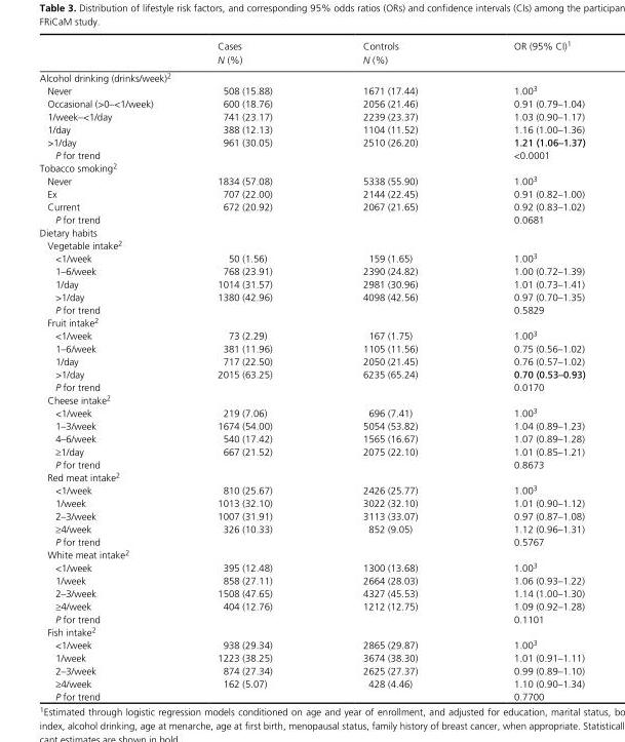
<table><thead><tr><td></td><td>Cases N (%)</td><td>Controls N (%)</td><td>OR (95% CI)1</td></tr></thead><tbody><tr><td colspan="4">Alcohol drinking (drinks/week)2</td></tr><tr><td>Never</td><td>508 (15.88)</td><td>1671 (17.44)</td><td>1.003</td></tr><tr><td>Occasional (&gt;0–&lt;1/week)</td><td>600 (18.76)</td><td>2056 (21.46)</td><td>0.91 (0.79–1.04)</td></tr><tr><td>1/week–&lt;1/day</td><td>741 (23.17)</td><td>2239 (23.37)</td><td>1.03 (0.90–1.17)</td></tr><tr><td>1/day</td><td>388 (12.13)</td><td>1104 (11.52)</td><td>1.16 (1.00–1.36)</td></tr><tr><td>&gt;1/day</td><td>961 (30.05)</td><td>2510 (26.20)</td><td>1.21 (1.06–1.37)</td></tr><tr><td>P for trend</td><td></td><td></td><td>&lt;0.0001</td></tr><tr><td colspan="4">Tobacco smoking2</td></tr><tr><td>Never</td><td>1834 (57.08)</td><td>5338 (55.90)</td><td>1.003</td></tr><tr><td>Ex</td><td>707 (22.00)</td><td>2144 (22.45)</td><td>0.91 (0.82–1.00)</td></tr><tr><td>Current</td><td>672 (20.92)</td><td>2067 (21.65)</td><td>0.92 (0.83–1.02)</td></tr><tr><td>P for trend</td><td></td><td></td><td>0.0681</td></tr><tr><td colspan="4">Dietary habits</td></tr><tr><td colspan="4">Vegetable intake2</td></tr><tr><td>&lt;1/week</td><td>50 (1.56)</td><td>159 (1.65)</td><td>1.003</td></tr><tr><td>1–6/week</td><td>768 (23.91)</td><td>2390 (24.82)</td><td>1.00 (0.72–1.39)</td></tr><tr><td>1/day</td><td>1014 (31.57)</td><td>2981 (30.96)</td><td>1.01 (0.73–1.41)</td></tr><tr><td>&gt;1/day</td><td>1380 (42.96)</td><td>4098 (42.56)</td><td>0.97 (0.70–1.35)</td></tr><tr><td>P for trend</td><td></td><td></td><td>0.5829</td></tr><tr><td colspan="4">Fruit intake2</td></tr><tr><td>&lt;1/week</td><td>73 (2.29)</td><td>167 (1.75)</td><td>1.003</td></tr><tr><td>1–6/week</td><td>381 (11.96)</td><td>1105 (11.56)</td><td>0.75 (0.56–1.02)</td></tr><tr><td>1/day</td><td>717 (22.50)</td><td>2050 (21.45)</td><td>0.76 (0.57–1.02)</td></tr><tr><td>&gt;1/day</td><td>2015 (63.25)</td><td>6235 (65.24)</td><td>0.70 (0.53–0.93)</td></tr><tr><td>P for trend</td><td></td><td></td><td>0.0170</td></tr><tr><td colspan="4">Cheese intake2</td></tr><tr><td>&lt;1/week</td><td>219 (7.06)</td><td>696 (7.41)</td><td>1.003</td></tr><tr><td>1–3/week</td><td>1674 (54.00)</td><td>5054 (53.82)</td><td>1.04 (0.89–1.23)</td></tr><tr><td>4–6/week</td><td>540 (17.42)</td><td>1565 (16.67)</td><td>1.07 (0.89–1.28)</td></tr><tr><td>≥1/day</td><td>667 (21.52)</td><td>2075 (22.10)</td><td>1.01 (0.85–1.21)</td></tr><tr><td>P for trend</td><td></td><td></td><td>0.8673</td></tr><tr><td colspan="4">Red meat intake2</td></tr><tr><td>&lt;1/week</td><td>810 (25.67)</td><td>2426 (25.77)</td><td>1.003</td></tr><tr><td>1/week</td><td>1013 (32.10)</td><td>3022 (32.10)</td><td>1.01 (0.90–1.12)</td></tr><tr><td>2–3/week</td><td>1007 (31.91)</td><td>3113 (33.07)</td><td>0.97 (0.87–1.08)</td></tr><tr><td>≥4/week</td><td>326 (10.33)</td><td>852 (9.05)</td><td>1.12 (0.96–1.31)</td></tr><tr><td>P for trend</td><td></td><td></td><td>0.5767</td></tr><tr><td colspan="4">White meat intake2</td></tr><tr><td>&lt;1/week</td><td>395 (12.48)</td><td>1300 (13.68)</td><td>1.003</td></tr><tr><td>1/week</td><td>858 (27.11)</td><td>2664 (28.03)</td><td>1.06 (0.93–1.22)</td></tr><tr><td>2–3/week</td><td>1508 (47.65)</td><td>4327 (45.53)</td><td>1.14 (1.00–1.30)</td></tr><tr><td>≥4/week</td><td>404 (12.76)</td><td>1212 (12.75)</td><td>1.09 (0.92–1.28)</td></tr><tr><td>P for trend</td><td></td><td></td><td>0.1101</td></tr><tr><td colspan="4">Fish intake2</td></tr><tr><td>&lt;1/week</td><td>938 (29.34)</td><td>2865 (29.87)</td><td>1.003</td></tr><tr><td>1/week</td><td>1223 (38.25)</td><td>3674 (38.30)</td><td>1.01 (0.91–1.11)</td></tr><tr><td>2–3/week</td><td>874 (27.34)</td><td>2625 (27.37)</td><td>0.99 (0.89–1.10)</td></tr><tr><td>≥4/week</td><td>162 (5.07)</td><td>428 (4.46)</td><td>1.10 (0.90–1.34)</td></tr><tr><td>P for trend</td><td></td><td></td><td>0.7700</td></tr></tbody></table>